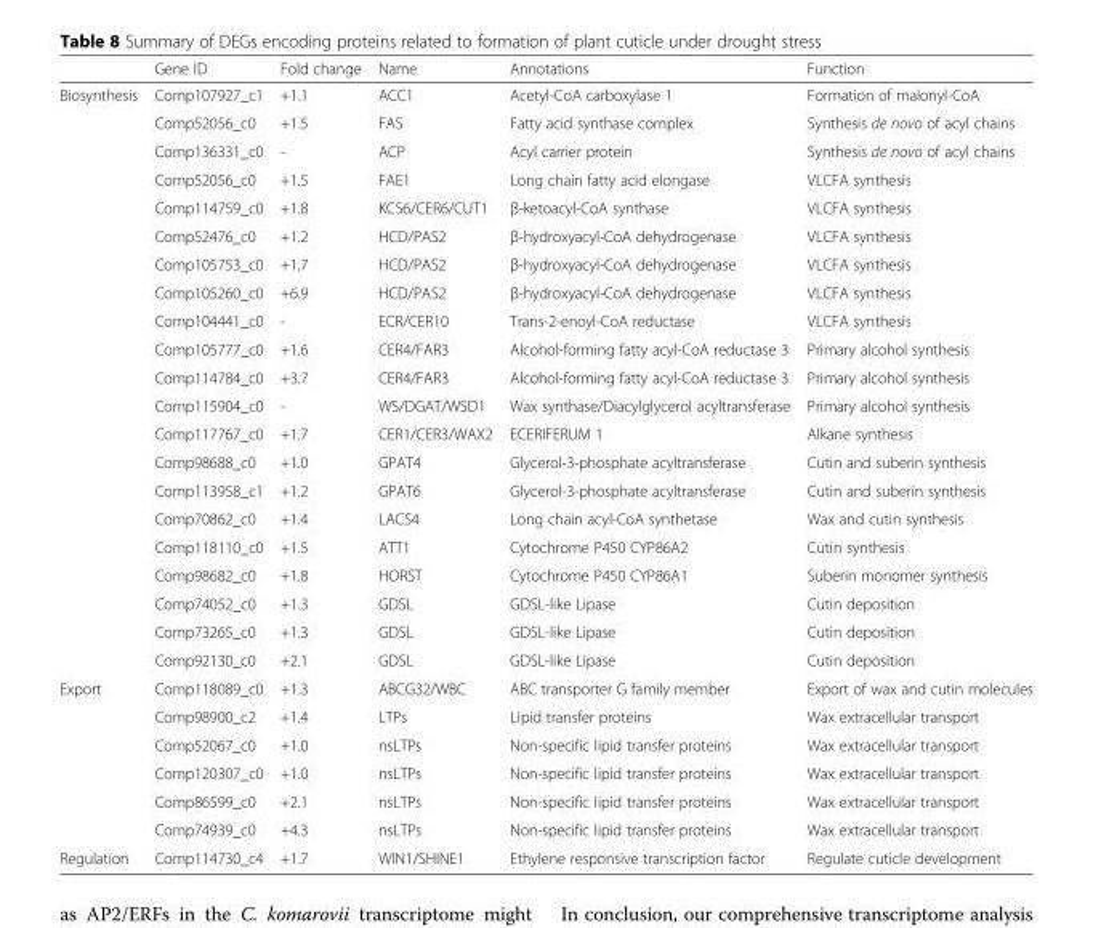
<table><thead><tr><td></td><td>Gene ID</td><td>Fold change</td><td>Name</td><td>Annotations</td><td>Function</td></tr></thead><tbody><tr><td rowspan="21">Biosynthesis</td><td>Comp107927_c1</td><td>+1.1</td><td>ACC1</td><td>Acetyl-CoA carboxylase 1</td><td>Formation of malonyl-CoA</td></tr><tr><td>Comp52056_c0</td><td>+1.5</td><td>FAS</td><td>Fatty acid synthase complex</td><td>Synthesis de novo of acyl chains</td></tr><tr><td>Comp136331_c0</td><td>-</td><td>ACP</td><td>Acyl carrier protein</td><td>Synthesis de novo of acyl chains</td></tr><tr><td>Comp52056_c0</td><td>+1.5</td><td>FAE1</td><td>Long chain fatty acid elongase</td><td>VLCFA synthesis</td></tr><tr><td>Comp114759_c0</td><td>+1.8</td><td>KCS6/CER6/CUT1</td><td>β-ketoacyl-CoA synthase</td><td>VLCFA synthesis</td></tr><tr><td>Comp52476_c0</td><td>+1.2</td><td>HCD/PAS2</td><td>β-hydroxyacyl-CoA dehydrogenase</td><td>VLCFA synthesis</td></tr><tr><td>Comp105753_c0</td><td>+1.7</td><td>HCD/PAS2</td><td>β-hydroxyacyl-CoA dehydrogenase</td><td>VLCFA synthesis</td></tr><tr><td>Comp105260_c0</td><td>+6.9</td><td>HCD/PAS2</td><td>β-hydroxyacyl-CoA dehydrogenase</td><td>VLCFA synthesis</td></tr><tr><td>Comp104441_c0</td><td>-</td><td>ECR/CER10</td><td>Trans-2-enoyl-CoA reductase</td><td>VLCFA synthesis</td></tr><tr><td>Comp105777_c0</td><td>+1.6</td><td>CER4/FAR3</td><td>Alcohol-forming fatty acyl-CoA reductase 3</td><td>Primary alcohol synthesis</td></tr><tr><td>Comp114784_c0</td><td>+3.7</td><td>CER4/FAR3</td><td>Alcohol-forming fatty acyl-CoA reductase 3</td><td>Primary alcohol synthesis</td></tr><tr><td>Comp115904_c0</td><td>-</td><td>WS/DGAT/WSD1</td><td>Wax synthase/Diacylglycerol acyltransferase</td><td>Primary alcohol synthesis</td></tr><tr><td>Comp117767_c0</td><td>+1.7</td><td>CER1/CER3/WAX2</td><td>ECERIFERUM 1</td><td>Alkane synthesis</td></tr><tr><td>Comp98688_c0</td><td>+1.0</td><td>GPAT4</td><td>Glycerol-3-phosphate acyltransferase</td><td>Cutin and suberin synthesis</td></tr><tr><td>Comp113958_c1</td><td>+1.2</td><td>GPAT6</td><td>Glycerol-3-phosphate acyltransferase</td><td>Cutin and suberin synthesis</td></tr><tr><td>Comp70862_c0</td><td>+1.4</td><td>LACS4</td><td>Long chain acyl-CoA synthetase</td><td>Wax and cutin synthesis</td></tr><tr><td>Comp118110_c0</td><td>+1.5</td><td>ATT1</td><td>Cytochrome P450 CYP86A2</td><td>Cutin synthesis</td></tr><tr><td>Comp98682_c0</td><td>+1.8</td><td>HORST</td><td>Cytochrome P450 CYP86A1</td><td>Suberin monomer synthesis</td></tr><tr><td>Comp74052_c0</td><td>+1.3</td><td>GDSL</td><td>GDSL-like Lipase</td><td>Cutin deposition</td></tr><tr><td>Comp73265_c0</td><td>+1.3</td><td>GDSL</td><td>GDSL-like Lipase</td><td>Cutin deposition</td></tr><tr><td>Comp92130_c0</td><td>+2.1</td><td>GDSL</td><td>GDSL-like Lipase</td><td>Cutin deposition</td></tr><tr><td rowspan="6">Export</td><td>Comp118089_c0</td><td>+1.3</td><td>ABCG32/WBC</td><td>ABC transporter G family member</td><td>Export of wax and cutin molecules</td></tr><tr><td>Comp98900_c2</td><td>+1.4</td><td>LTPs</td><td>Lipid transfer proteins</td><td>Wax extracellular transport</td></tr><tr><td>Comp52067_c0</td><td>+1.0</td><td>nsLTPs</td><td>Non-specific lipid transfer proteins</td><td>Wax extracellular transport</td></tr><tr><td>Comp120307_c0</td><td>+1.0</td><td>nsLTPs</td><td>Non-specific lipid transfer proteins</td><td>Wax extracellular transport</td></tr><tr><td>Comp86599_c0</td><td>+2.1</td><td>nsLTPs</td><td>Non-specific lipid transfer proteins</td><td>Wax extracellular transport</td></tr><tr><td>Comp74939_c0</td><td>+4.3</td><td>nsLTPs</td><td>Non-specific lipid transfer proteins</td><td>Wax extracellular transport</td></tr><tr><td>Regulation</td><td>Comp114730_c4</td><td>+1.7</td><td>WIN1/SHINE1</td><td>Ethylene responsive transcription factor</td><td>Regulate cuticle development</td></tr></tbody></table>